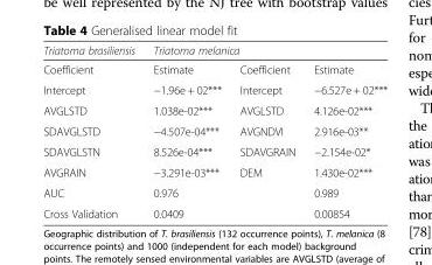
<table><thead><tr><td rowspan="2">Triatoma brasiliensis Coefficient</td><td colspan="3">Triatoma melanica</td></tr><tr><td>Estimate</td><td>Coefficient</td><td>Estimate</td></tr></thead><tbody><tr><td>Intercept</td><td>−1.96e + 02***</td><td>Intercept</td><td>−6.527e + 02***</td></tr><tr><td>AVGLSTD</td><td>1.038e-02***</td><td>AVGLSTD</td><td>4.126e-02***</td></tr><tr><td>SDAVGLSTD</td><td>−4.507e-04***</td><td>AVGNDVI</td><td>2.916e-03**</td></tr><tr><td>SDAVGLSTN</td><td>8.526e-04***</td><td>SDAVGRAIN</td><td>−2.154e-02*</td></tr><tr><td>AVGRAIN</td><td>−3.291e-03***</td><td>DEM</td><td>1.430e-02***</td></tr><tr><td>AUC</td><td>0.976</td><td></td><td>0.989</td></tr><tr><td>Cross Validation</td><td>0.0409</td><td></td><td>0.00854</td></tr></tbody></table>